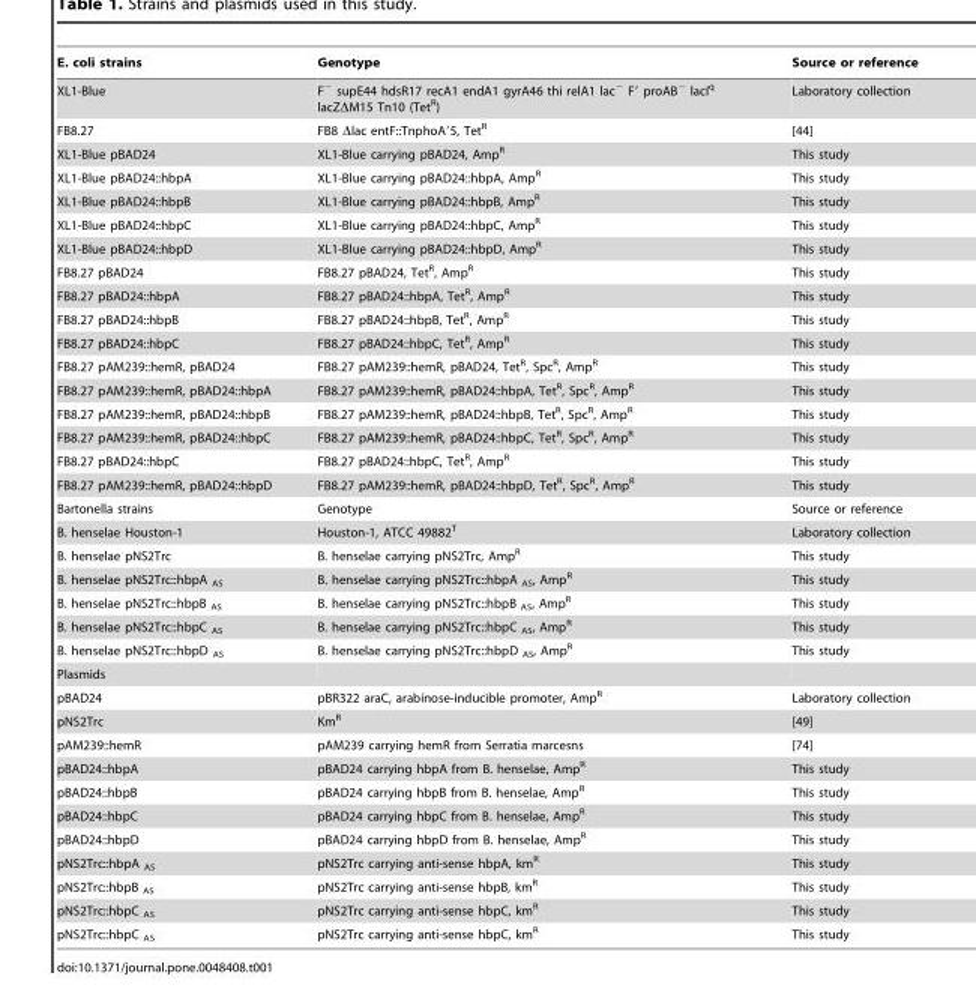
<table><thead><tr><td>E. coli strains</td><td>Genotype</td><td>Source or reference</td></tr></thead><tbody><tr><td>XL1-Blue</td><td>F<sup>−</sup> supE44 hdsR17 recA1 endA1 gyrA46 thi relA1 lac<sup>−</sup> F′ proAB<sup>−</sup> lacI<sup>q</sup> lacZΔM15 Tn10 (Tet<sup>R</sup>)</td><td>Laboratory collection</td></tr><tr><td>FB8.27</td><td>FB8 Δlac entF::TnphoA′5, Tet<sup>R</sup></td><td>[44]</td></tr><tr><td>XL1-Blue pBAD24</td><td>XL1-Blue carrying pBAD24, Amp<sup>R</sup></td><td>This study</td></tr><tr><td>XL1-Blue pBAD24::hbpA</td><td>XL1-Blue carrying pBAD24::hbpA, Amp<sup>R</sup></td><td>This study</td></tr><tr><td>XL1-Blue pBAD24::hbpB</td><td>XL1-Blue carrying pBAD24::hbpB, Amp<sup>R</sup></td><td>This study</td></tr><tr><td>XL1-Blue pBAD24::hbpC</td><td>XL1-Blue carrying pBAD24::hbpC, Amp<sup>R</sup></td><td>This study</td></tr><tr><td>XL1-Blue pBAD24::hbpD</td><td>XL1-Blue carrying pBAD24::hbpD, Amp<sup>R</sup></td><td>This study</td></tr><tr><td>FB8.27 pBAD24</td><td>FB8.27 pBAD24, Tet<sup>R</sup>, Amp<sup>R</sup></td><td>This study</td></tr><tr><td>FB8.27 pBAD24::hbpA</td><td>FB8.27 pBAD24::hbpA, Tet<sup>R</sup>, Amp<sup>R</sup></td><td>This study</td></tr><tr><td>FB8.27 pBAD24::hbpB</td><td>FB8.27 pBAD24::hbpB, Tet<sup>R</sup>, Amp<sup>R</sup></td><td>This study</td></tr><tr><td>FB8.27 pBAD24::hbpC</td><td>FB8.27 pBAD24::hbpC, Tet<sup>R</sup>, Amp<sup>R</sup></td><td>This study</td></tr><tr><td>FB8.27 pAM239::hemR, pBAD24</td><td>FB8.27 pAM239::hemR, pBAD24, Tet<sup>R</sup>, Spc<sup>R</sup>, Amp<sup>R</sup></td><td>This study</td></tr><tr><td>FB8.27 pAM239::hemR, pBAD24::hbpA</td><td>FB8.27 pAM239::hemR, pBAD24::hbpA, Tet<sup>R</sup>, Spc<sup>R</sup>, Amp<sup>R</sup></td><td>This study</td></tr><tr><td>FB8.27 pAM239::hemR, pBAD24::hbpB</td><td>FB8.27 pAM239::hemR, pBAD24::hbpB, Tet<sup>R</sup>, Spc<sup>R</sup>, Amp<sup>R</sup></td><td>This study</td></tr><tr><td>FB8.27 pAM239::hemR, pBAD24::hbpC</td><td>FB8.27 pAM239::hemR, pBAD24::hbpC, Tet<sup>R</sup>, Spc<sup>R</sup>, Amp<sup>R</sup></td><td>This study</td></tr><tr><td>FB8.27 pBAD24::hbpC</td><td>FB8.27 pBAD24::hbpC, Tet<sup>R</sup>, Amp<sup>R</sup></td><td>This study</td></tr><tr><td>FB8.27 pAM239::hemR, pBAD24::hbpD</td><td>FB8.27 pAM239::hemR, pBAD24::hbpD, Tet<sup>R</sup>, Spc<sup>R</sup>, Amp<sup>R</sup></td><td>This study</td></tr><tr><td>Bartonella strains</td><td>Genotype</td><td>Source or reference</td></tr><tr><td>B. henselae Houston-1</td><td>Houston-1, ATCC 49882<sup>T</sup></td><td>Laboratory collection</td></tr><tr><td>B. henselae pNS2Trc</td><td>B. henselae carrying pNS2Trc, Amp<sup>R</sup></td><td>This study</td></tr><tr><td>B. henselae pNS2Trc::hbpA <sub>AS</sub></td><td>B. henselae carrying pNS2Trc::hbpA <sub>AS</sub>, Amp<sup>R</sup></td><td>This study</td></tr><tr><td>B. henselae pNS2Trc::hbpB <sub>AS</sub></td><td>B. henselae carrying pNS2Trc::hbpB <sub>AS</sub>, Amp<sup>R</sup></td><td>This study</td></tr><tr><td>B. henselae pNS2Trc::hbpC <sub>AS</sub></td><td>B. henselae carrying pNS2Trc::hbpC <sub>AS</sub>, Amp<sup>R</sup></td><td>This study</td></tr><tr><td>B. henselae pNS2Trc::hbpD <sub>AS</sub></td><td>B. henselae carrying pNS2Trc::hbpD <sub>AS</sub>, Amp<sup>R</sup></td><td>This study</td></tr><tr><td colspan="3">Plasmids</td></tr><tr><td>pBAD24</td><td>pBR322 araC, arabinose-inducible promoter, Amp<sup>R</sup></td><td>Laboratory collection</td></tr><tr><td>pNS2Trc</td><td>Km<sup>R</sup></td><td>[49]</td></tr><tr><td>pAM239::hemR</td><td>pAM239 carrying hemR from Serratia marcesns</td><td>[74]</td></tr><tr><td>pBAD24::hbpA</td><td>pBAD24 carrying hbpA from B. henselae, Amp<sup>R</sup></td><td>This study</td></tr><tr><td>pBAD24::hbpB</td><td>pBAD24 carrying hbpB from B. henselae, Amp<sup>R</sup></td><td>This study</td></tr><tr><td>pBAD24::hbpC</td><td>pBAD24 carrying hbpC from B. henselae, Amp<sup>R</sup></td><td>This study</td></tr><tr><td>pBAD24::hbpD</td><td>pBAD24 carrying hbpD from B. henselae, Amp<sup>R</sup></td><td>This study</td></tr><tr><td>pNS2Trc::hbpA <sub>AS</sub></td><td>pNS2Trc carrying anti-sense hbpA, km<sup>R</sup></td><td>This study</td></tr><tr><td>pNS2Trc::hbpB <sub>AS</sub></td><td>pNS2Trc carrying anti-sense hbpB, km<sup>R</sup></td><td>This study</td></tr><tr><td>pNS2Trc::hbpC <sub>AS</sub></td><td>pNS2Trc carrying anti-sense hbpC, km<sup>R</sup></td><td>This study</td></tr><tr><td>pNS2Trc::hbpC <sub>AS</sub></td><td>pNS2Trc carrying anti-sense hbpC, km<sup>R</sup></td><td>This study</td></tr></tbody></table>